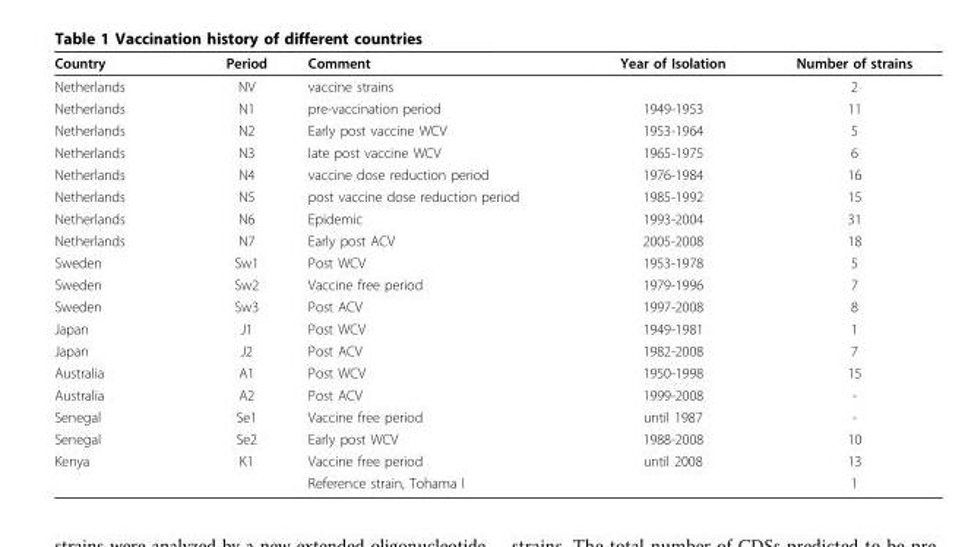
<table><thead><tr><td>Country</td><td>Period</td><td>Comment</td><td>Year of Isolation</td><td>Number of strains</td></tr></thead><tbody><tr><td>Netherlands</td><td>NV</td><td>vaccine strains</td><td></td><td>2</td></tr><tr><td>Netherlands</td><td>N1</td><td>pre-vaccination period</td><td>1949-1953</td><td>11</td></tr><tr><td>Netherlands</td><td>N2</td><td>Early post vaccine WCV</td><td>1953-1964</td><td>5</td></tr><tr><td>Netherlands</td><td>N3</td><td>late post vaccine WCV</td><td>1965-1975</td><td>6</td></tr><tr><td>Netherlands</td><td>N4</td><td>vaccine dose reduction period</td><td>1976-1984</td><td>16</td></tr><tr><td>Netherlands</td><td>N5</td><td>post vaccine dose reduction period</td><td>1985-1992</td><td>15</td></tr><tr><td>Netherlands</td><td>N6</td><td>Epidemic</td><td>1993-2004</td><td>31</td></tr><tr><td>Netherlands</td><td>N7</td><td>Early post ACV</td><td>2005-2008</td><td>18</td></tr><tr><td>Sweden</td><td>Sw1</td><td>Post WCV</td><td>1953-1978</td><td>5</td></tr><tr><td>Sweden</td><td>Sw2</td><td>Vaccine free period</td><td>1979-1996</td><td>7</td></tr><tr><td>Sweden</td><td>Sw3</td><td>Post ACV</td><td>1997-2008</td><td>8</td></tr><tr><td>Japan</td><td>J1</td><td>Post WCV</td><td>1949-1981</td><td>1</td></tr><tr><td>Japan</td><td>J2</td><td>Post ACV</td><td>1982-2008</td><td>7</td></tr><tr><td>Australia</td><td>A1</td><td>Post WCV</td><td>1950-1998</td><td>15</td></tr><tr><td>Australia</td><td>A2</td><td>Post ACV</td><td>1999-2008</td><td>-</td></tr><tr><td>Senegal</td><td>Se1</td><td>Vaccine free period</td><td>until 1987</td><td>-</td></tr><tr><td>Senegal</td><td>Se2</td><td>Early post WCV</td><td>1988-2008</td><td>10</td></tr><tr><td rowspan="2">Kenya</td><td>K1</td><td>Vaccine free period</td><td>until 2008</td><td>13</td></tr><tr><td></td><td>Reference strain, Tohama I</td><td></td><td>1</td></tr></tbody></table>